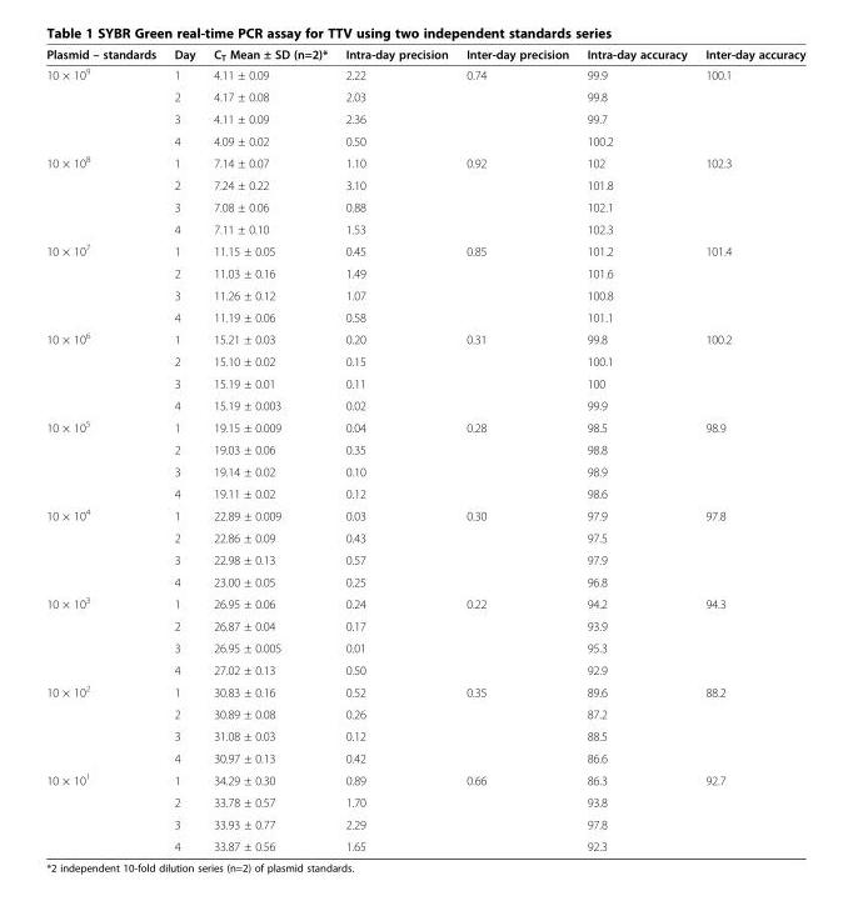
<table><thead><tr><td>Plasmid – standards</td><td>Day</td><td>C<sub>T</sub> Mean ± SD (n=2)*</td><td>Intra-day precision</td><td>Inter-day precision</td><td>Intra-day accuracy</td><td>Inter-day accuracy</td></tr></thead><tbody><tr><td rowspan="4">10 × 10<sup>9</sup></td><td>1</td><td>4.11 ± 0.09</td><td>2.22</td><td>0.74</td><td>99.9</td><td>100.1</td></tr><tr><td>2</td><td>4.17 ± 0.08</td><td>2.03</td><td></td><td>99.8</td><td></td></tr><tr><td>3</td><td>4.11 ± 0.09</td><td>2.36</td><td></td><td>99.7</td><td></td></tr><tr><td>4</td><td>4.09 ± 0.02</td><td>0.50</td><td></td><td>100.2</td><td></td></tr><tr><td rowspan="4">10 × 10<sup>8</sup></td><td>1</td><td>7.14 ± 0.07</td><td>1.10</td><td>0.92</td><td>102</td><td>102.3</td></tr><tr><td>2</td><td>7.24 ± 0.22</td><td>3.10</td><td></td><td>101.8</td><td></td></tr><tr><td>3</td><td>7.08 ± 0.06</td><td>0.88</td><td></td><td>102.1</td><td></td></tr><tr><td>4</td><td>7.11 ± 0.10</td><td>1.53</td><td></td><td>102.3</td><td></td></tr><tr><td rowspan="4">10 × 10<sup>7</sup></td><td>1</td><td>11.15 ± 0.05</td><td>0.45</td><td>0.85</td><td>101.2</td><td>101.4</td></tr><tr><td>2</td><td>11.03 ± 0.16</td><td>1.49</td><td></td><td>101.6</td><td></td></tr><tr><td>3</td><td>11.26 ± 0.12</td><td>1.07</td><td></td><td>100.8</td><td></td></tr><tr><td>4</td><td>11.19 ± 0.06</td><td>0.58</td><td></td><td>101.1</td><td></td></tr><tr><td rowspan="4">10 × 10<sup>6</sup></td><td>1</td><td>15.21 ± 0.03</td><td>0.20</td><td>0.31</td><td>99.8</td><td>100.2</td></tr><tr><td>2</td><td>15.10 ± 0.02</td><td>0.15</td><td></td><td>100.1</td><td></td></tr><tr><td>3</td><td>15.19 ± 0.01</td><td>0.11</td><td></td><td>100</td><td></td></tr><tr><td>4</td><td>15.19 ± 0.003</td><td>0.02</td><td></td><td>99.9</td><td></td></tr><tr><td rowspan="4">10 × 10<sup>5</sup></td><td>1</td><td>19.15 ± 0.009</td><td>0.04</td><td>0.28</td><td>98.5</td><td>98.9</td></tr><tr><td>2</td><td>19.03 ± 0.06</td><td>0.35</td><td></td><td>98.8</td><td></td></tr><tr><td>3</td><td>19.14 ± 0.02</td><td>0.10</td><td></td><td>98.9</td><td></td></tr><tr><td>4</td><td>19.11 ± 0.02</td><td>0.12</td><td></td><td>98.6</td><td></td></tr><tr><td rowspan="4">10 × 10<sup>4</sup></td><td>1</td><td>22.89 ± 0.009</td><td>0.03</td><td>0.30</td><td>97.9</td><td>97.8</td></tr><tr><td>2</td><td>22.86 ± 0.09</td><td>0.43</td><td></td><td>97.5</td><td></td></tr><tr><td>3</td><td>22.98 ± 0.13</td><td>0.57</td><td></td><td>97.9</td><td></td></tr><tr><td>4</td><td>23.00 ± 0.05</td><td>0.25</td><td></td><td>96.8</td><td></td></tr><tr><td rowspan="4">10 × 10<sup>3</sup></td><td>1</td><td>26.95 ± 0.06</td><td>0.24</td><td>0.22</td><td>94.2</td><td>94.3</td></tr><tr><td>2</td><td>26.87 ± 0.04</td><td>0.17</td><td></td><td>93.9</td><td></td></tr><tr><td>3</td><td>26.95 ± 0.005</td><td>0.01</td><td></td><td>95.3</td><td></td></tr><tr><td>4</td><td>27.02 ± 0.13</td><td>0.50</td><td></td><td>92.9</td><td></td></tr><tr><td rowspan="4">10 × 10<sup>2</sup></td><td>1</td><td>30.83 ± 0.16</td><td>0.52</td><td>0.35</td><td>89.6</td><td>88.2</td></tr><tr><td>2</td><td>30.89 ± 0.08</td><td>0.26</td><td></td><td>87.2</td><td></td></tr><tr><td>3</td><td>31.08 ± 0.03</td><td>0.12</td><td></td><td>88.5</td><td></td></tr><tr><td>4</td><td>30.97 ± 0.13</td><td>0.42</td><td></td><td>86.6</td><td></td></tr><tr><td rowspan="4">10 × 10<sup>1</sup></td><td>1</td><td>34.29 ± 0.30</td><td>0.89</td><td>0.66</td><td>86.3</td><td>92.7</td></tr><tr><td>2</td><td>33.78 ± 0.57</td><td>1.70</td><td></td><td>93.8</td><td></td></tr><tr><td>3</td><td>33.93 ± 0.77</td><td>2.29</td><td></td><td>97.8</td><td></td></tr><tr><td>4</td><td>33.87 ± 0.56</td><td>1.65</td><td></td><td>92.3</td><td></td></tr></tbody></table>